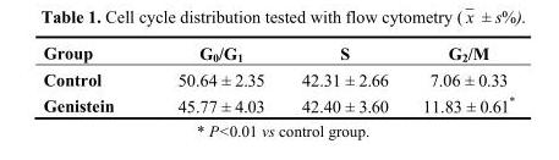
<table><thead><tr><td>Group</td><td>G<sub>0</sub>/G<sub>1</sub></td><td>S</td><td>G<sub>2</sub>/M</td></tr></thead><tbody><tr><td>Control</td><td>50.64 ± 2.35</td><td>42.31 ± 2.66</td><td>7.06 ± 0.33</td></tr><tr><td>Genistein</td><td>45.77 ± 4.03</td><td>42.40 ± 3.60</td><td>11.83 ± 0.61*</td></tr></tbody></table>